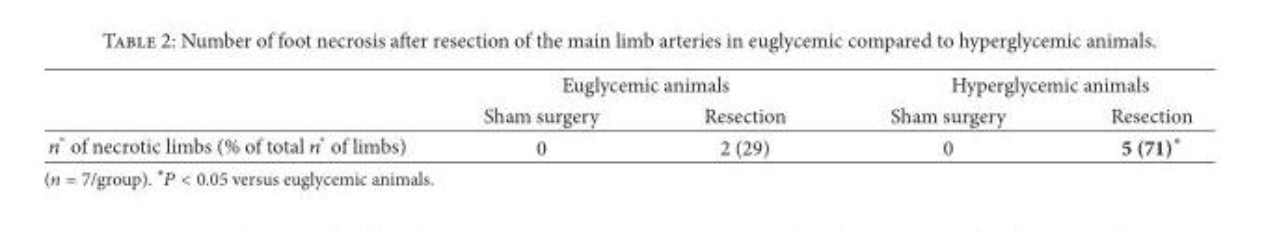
<table><thead><tr><td rowspan="2"></td><td colspan="2">Euglycemic animals</td><td colspan="2">Hyperglycemic animals</td></tr><tr><td>Sham surgery</td><td>Resection</td><td>Sham surgery</td><td>Resection</td></tr></thead><tbody><tr><td>of necrotic limbs (% of total 𝑛𝑛∘ of limbs)</td><td>0</td><td>2 (29)</td><td>0</td><td>5 (71)∗</td></tr></tbody></table>